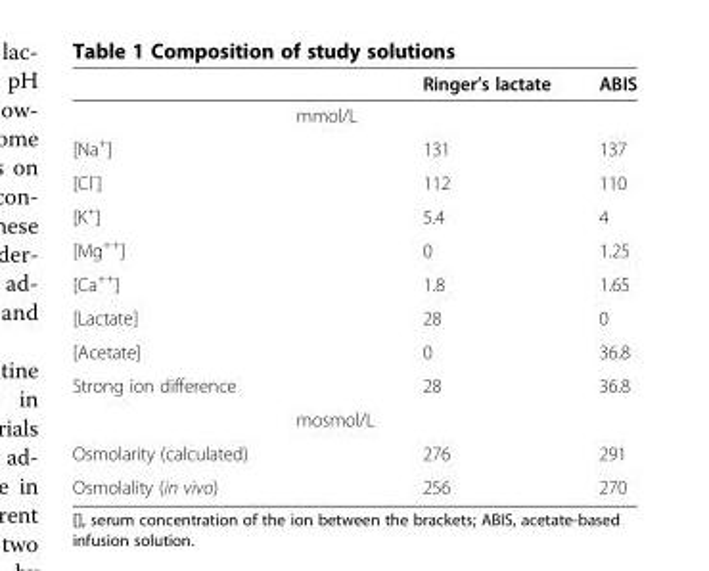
<table><thead><tr><td></td><td></td><td>Ringer’s lactate</td><td>ABIS</td></tr></thead><tbody><tr><td></td><td>mmol/L</td><td></td><td></td></tr><tr><td>[Na<sup>+</sup>]</td><td></td><td>131</td><td>137</td></tr><tr><td>[Cl<sup>-</sup>]</td><td></td><td>112</td><td>110</td></tr><tr><td>[K<sup>+</sup>]</td><td></td><td>5.4</td><td>4</td></tr><tr><td>[Mg<sup>++</sup>]</td><td></td><td>0</td><td>1.25</td></tr><tr><td>[Ca<sup>++</sup>]</td><td></td><td>1.8</td><td>1.65</td></tr><tr><td>[Lactate]</td><td></td><td>28</td><td>0</td></tr><tr><td>[Acetate]</td><td></td><td>0</td><td>36.8</td></tr><tr><td rowspan="2">Strong ion difference</td><td></td><td>28</td><td>36.8</td></tr><tr><td>mosmol/L</td><td></td><td></td></tr><tr><td>Osmolarity (calculated)</td><td></td><td>276</td><td>291</td></tr><tr><td>Osmolality (in vivo)</td><td></td><td>256</td><td>270</td></tr></tbody></table>